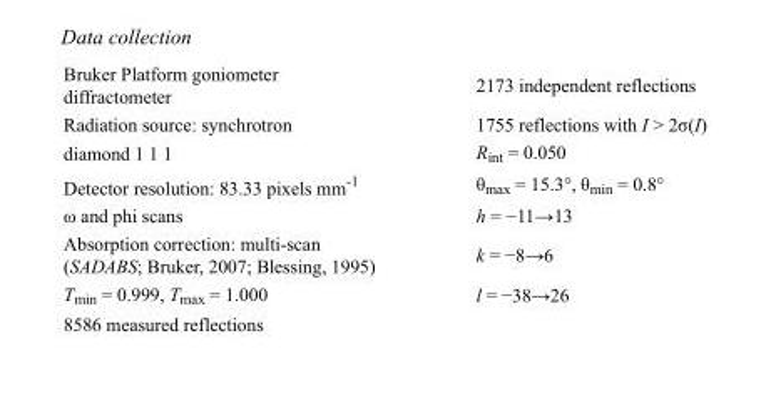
<table><tbody><tr><td>Bruker Platform goniometer diffractometer</td><td>2173 independent reflections</td></tr><tr><td>Radiation source: synchrotron</td><td>1755 reflections with I &gt; 2σ(I)</td></tr><tr><td>diamond 1 1 1</td><td>R<sub>int</sub> = 0.050</td></tr><tr><td>Detector resolution: 83.33 pixels mm<sup>-1</sup></td><td>θ<sub>max</sub> = 15.3°, θ<sub>min</sub> = 0.8°</td></tr><tr><td>ω and phi scans</td><td>h = −11→13</td></tr><tr><td>Absorption correction: multi-scan (SADABS; Bruker, 2007; Blessing, 1995)</td><td>k = −8→6</td></tr><tr><td>T<sub>min</sub> = 0.999, T<sub>max</sub> = 1.000</td><td>l = −38→26</td></tr><tr><td>8586 measured reflections</td><td></td></tr></tbody></table>